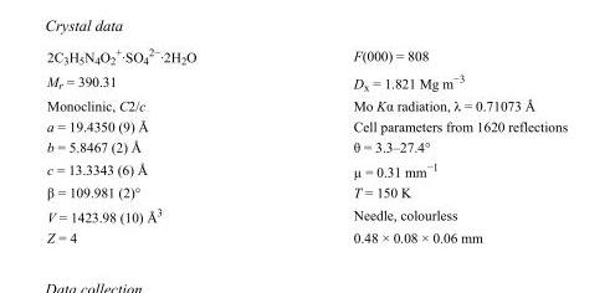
<table><tbody><tr><td>2C<sub>3</sub>H<sub>5</sub>N<sub>4</sub>O<sub>2</sub> <sup>+</sup>·SO<sub>4</sub> <sup>2−</sup>·2H<sub>2</sub>O</td><td>F(000) = 808</td></tr><tr><td>M<sub>r</sub> = 390.31</td><td>D<sub>x</sub> = 1.821 Mg m<sup>−3</sup></td></tr><tr><td>Monoclinic, C2/c</td><td>Mo Kα radiation, λ = 0.71073 Å</td></tr><tr><td>a = 19.4350 (9) Å</td><td>Cell parameters from 1620 reflections</td></tr><tr><td>b = 5.8467 (2) Å</td><td>θ = 3.3–27.4°</td></tr><tr><td>c = 13.3343 (6) Å</td><td>µ = 0.31 mm<sup>−1</sup></td></tr><tr><td>β = 109.981 (2)°</td><td>T = 150 K</td></tr><tr><td>V = 1423.98 (10) Å<sup>3</sup></td><td>Needle, colourless</td></tr><tr><td>Z = 4</td><td>0.48 × 0.08 × 0.06 mm</td></tr></tbody></table>